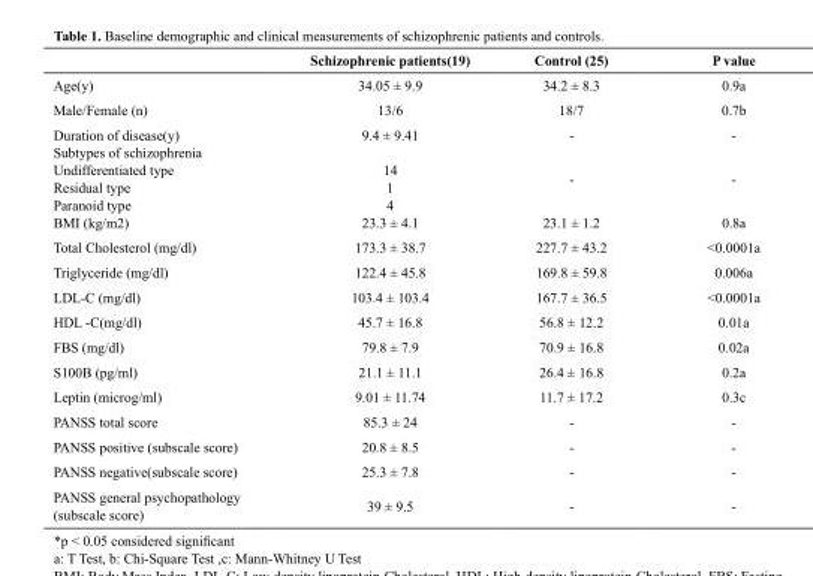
<table><thead><tr><td></td><td>Schizophrenic patients(19)</td><td>Control (25)</td><td>P value</td></tr></thead><tbody><tr><td>Age(y)</td><td>34.05 ± 9.9</td><td>34.2 ± 8.3</td><td>0.9<sup>a</sup></td></tr><tr><td>Male/Female (n)</td><td>13/6</td><td>18/7</td><td>0.7<sup>b</sup></td></tr><tr><td>Duration of disease(y)</td><td>9.4 ± 9.41</td><td>-</td><td>-</td></tr><tr><td colspan="4">Subtypes of schizophrenia</td></tr><tr><td>Undifferentiated type Residual type Paranoid type</td><td>14 1 4</td><td>-</td><td>-</td></tr><tr><td>BMI (kg/m2)</td><td>23.3 ± 4.1</td><td>23.1 ± 1.2</td><td>0.8<sup>a</sup></td></tr><tr><td>Total Cholesterol (mg/dl)</td><td>173.3 ± 38.7</td><td>227.7 ± 43.2</td><td>&lt;0.0001<sup>a</sup></td></tr><tr><td>Triglyceride (mg/dl)</td><td>122.4 ± 45.8</td><td>169.8 ± 59.8</td><td>0.006<sup>a</sup></td></tr><tr><td>LDL-C (mg/dl)</td><td>103.4 ± 103.4</td><td>167.7 ± 36.5</td><td>&lt;0.0001<sup>a</sup></td></tr><tr><td>HDL -C(mg/dl)</td><td>45.7 ± 16.8</td><td>56.8 ± 12.2</td><td>0.01<sup>a</sup></td></tr><tr><td>FBS (mg/dl)</td><td>79.8 ± 7.9</td><td>70.9 ± 16.8</td><td>0.02<sup>a</sup></td></tr><tr><td>S100B (pg/ml)</td><td>21.1 ± 11.1</td><td>26.4 ± 16.8</td><td>0.2<sup>a</sup></td></tr><tr><td>Leptin (microg/ml)</td><td>9.01 ± 11.74</td><td>11.7 ± 17.2</td><td>0.3<sup>c</sup></td></tr><tr><td>PANSS total score</td><td>85.3 ± 24</td><td>-</td><td>-</td></tr><tr><td>PANSS positive (subscale score)</td><td>20.8 ± 8.5</td><td>-</td><td>-</td></tr><tr><td>PANSS negative(subscale score)</td><td>25.3 ± 7.8</td><td>-</td><td>-</td></tr><tr><td>PANSS general psychopathology (subscale score)</td><td>39 ± 9.5</td><td>-</td><td>-</td></tr></tbody></table>